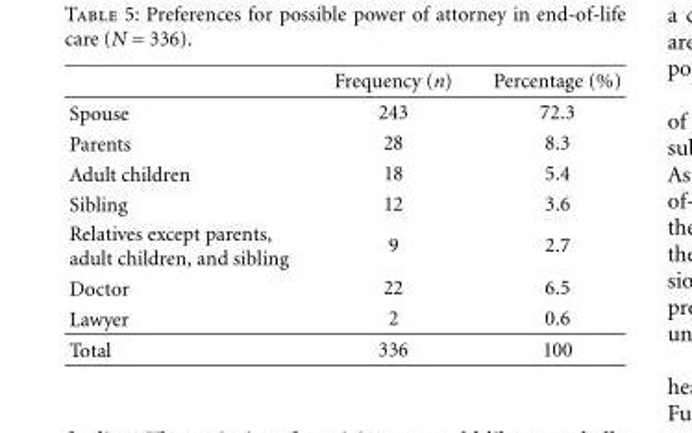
<table><thead><tr><td></td><td>Frequency (n)</td><td>Percentage (%)</td></tr></thead><tbody><tr><td>Spouse</td><td>243</td><td>72.3</td></tr><tr><td>Parents</td><td>28</td><td>8.3</td></tr><tr><td>Adult children</td><td>18</td><td>5.4</td></tr><tr><td>Sibling</td><td>12</td><td>3.6</td></tr><tr><td>Relatives except parents, adult children, and sibling</td><td>9</td><td>2.7</td></tr><tr><td>Doctor</td><td>22</td><td>6.5</td></tr><tr><td>Lawyer</td><td>2</td><td>0.6</td></tr><tr><td>Total</td><td>336</td><td>100</td></tr></tbody></table>